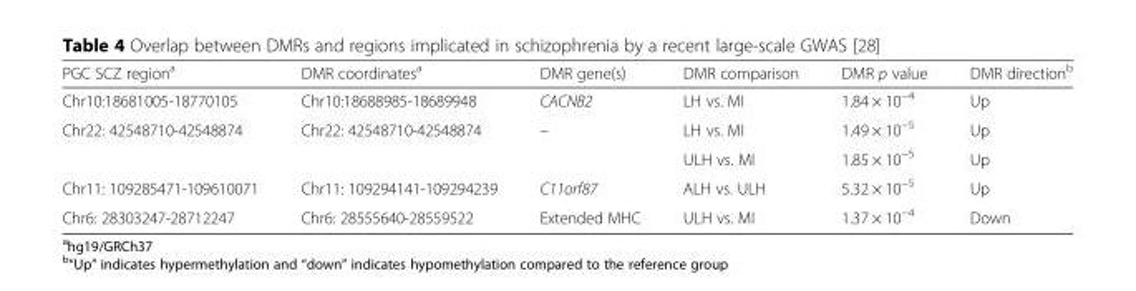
<table><thead><tr><td>PGC SCZ region<sup>a</sup></td><td>DMR coordinates<sup>a</sup></td><td>DMR gene(s)</td><td>DMR comparison</td><td>DMR p value</td><td>DMR direction<sup>b</sup></td></tr></thead><tbody><tr><td>Chr10:18681005-18770105</td><td>Chr10:18688985-18689948</td><td>CACNB2</td><td>LH vs. MI</td><td>1.84 × 10<sup>−4</sup></td><td>Up</td></tr><tr><td rowspan="2">Chr22: 42548710-42548874</td><td rowspan="2">Chr22: 42548710-42548874</td><td rowspan="2">–</td><td>LH vs. MI</td><td>1.49 × 10<sup>−5</sup></td><td>Up</td></tr><tr><td>ULH vs. MI</td><td>1.85 × 10<sup>−5</sup></td><td>Up</td></tr><tr><td>Chr11: 109285471-109610071</td><td>Chr11: 109294141-109294239</td><td>C11orf87</td><td>ALH vs. ULH</td><td>5.32 × 10<sup>−5</sup></td><td>Up</td></tr><tr><td>Chr6: 28303247-28712247</td><td>Chr6: 28555640-28559522</td><td>Extended MHC</td><td>ULH vs. MI</td><td>1.37 × 10<sup>−4</sup></td><td>Down</td></tr></tbody></table>